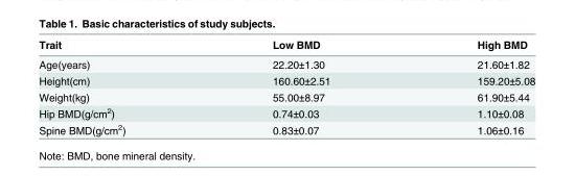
<table><thead><tr><td>Trait</td><td>Low BMD</td><td>High BMD</td></tr></thead><tbody><tr><td>Age(years)</td><td>22.20±1.30</td><td>21.60±1.82</td></tr><tr><td>Height(cm)</td><td>160.60±2.51</td><td>159.20±5.08</td></tr><tr><td>Weight(kg)</td><td>55.00±8.97</td><td>61.90±5.44</td></tr><tr><td>Hip BMD(g/cm<sup>2</sup>)</td><td>0.74±0.03</td><td>1.10±0.08</td></tr><tr><td>Spine BMD(g/cm<sup>2</sup>)</td><td>0.83±0.07</td><td>1.06±0.16</td></tr></tbody></table>